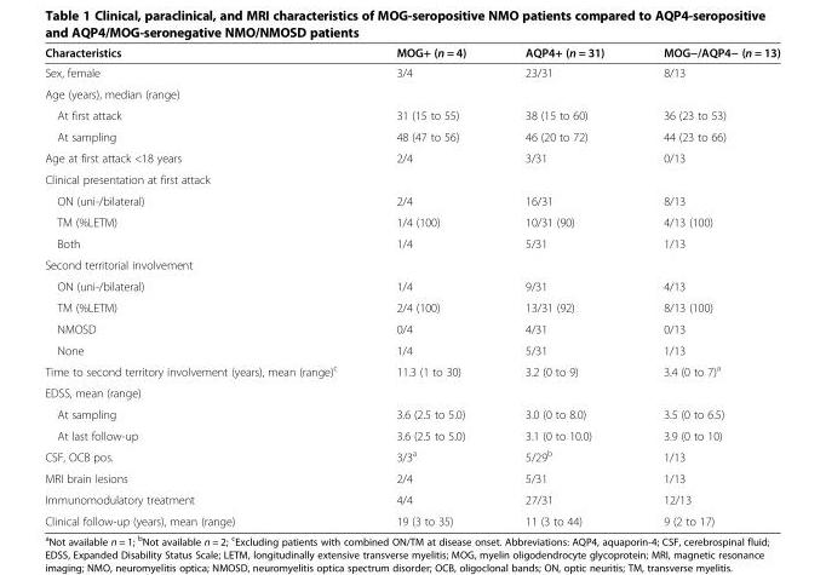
<table><thead><tr><td>Characteristics</td><td>MOG+ (n = 4)</td><td>AQP4+ (n = 31)</td><td>MOG−/AQP4− (n = 13)</td></tr></thead><tbody><tr><td>Sex, female</td><td>3/4</td><td>23/31</td><td>8/13</td></tr><tr><td colspan="4">Age (years), median (range)</td></tr><tr><td>At first attack</td><td>31 (15 to 55)</td><td>38 (15 to 60)</td><td>36 (23 to 53)</td></tr><tr><td>At sampling</td><td>48 (47 to 56)</td><td>46 (20 to 72)</td><td>44 (23 to 66)</td></tr><tr><td>Age at first attack &lt;18 years</td><td>2/4</td><td>3/31</td><td>0/13</td></tr><tr><td colspan="4">Clinical presentation at first attack</td></tr><tr><td>ON (uni-/bilateral)</td><td>2/4</td><td>16/31</td><td>8/13</td></tr><tr><td>TM (%LETM)</td><td>1/4 (100)</td><td>10/31 (90)</td><td>4/13 (100)</td></tr><tr><td>Both</td><td>1/4</td><td>5/31</td><td>1/13</td></tr><tr><td colspan="4">Second territorial involvement</td></tr><tr><td>ON (uni-/bilateral)</td><td>1/4</td><td>9/31</td><td>4/13</td></tr><tr><td>TM (%LETM)</td><td>2/4 (100)</td><td>13/31 (92)</td><td>8/13 (100)</td></tr><tr><td>NMOSD</td><td>0/4</td><td>4/31</td><td>0/13</td></tr><tr><td>None</td><td>1/4</td><td>5/31</td><td>1/13</td></tr><tr><td>Time to second territory involvement (years), mean (range)<sup>c</sup></td><td>11.3 (1 to 30)</td><td>3.2 (0 to 9)</td><td>3.4 (0 to 7)<sup>a</sup></td></tr><tr><td colspan="4">EDSS, mean (range)</td></tr><tr><td>At sampling</td><td>3.6 (2.5 to 5.0)</td><td>3.0 (0 to 8.0)</td><td>3.5 (0 to 6.5)</td></tr><tr><td>At last follow-up</td><td>3.6 (2.5 to 5.0)</td><td>3.1 (0 to 10.0)</td><td>3.9 (0 to 10)</td></tr><tr><td>CSF, OCB pos.</td><td>3/3<sup>a</sup></td><td>5/29<sup>b</sup></td><td>1/13</td></tr><tr><td>MRI brain lesions</td><td>2/4</td><td>5/31</td><td>1/13</td></tr><tr><td>Immunomodulatory treatment</td><td>4/4</td><td>27/31</td><td>12/13</td></tr><tr><td>Clinical follow-up (years), mean (range)</td><td>19 (3 to 35)</td><td>11 (3 to 44)</td><td>9 (2 to 17)</td></tr></tbody></table>